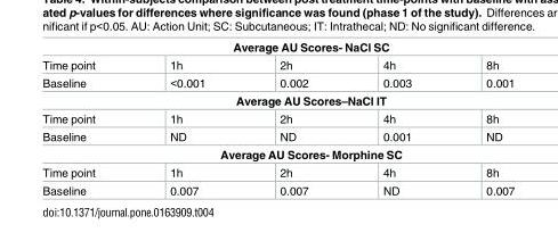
<table><tbody><tr><td colspan="5">Average AU Scores- NaCl SC</td></tr><tr><td>Time point</td><td>1h</td><td>2h</td><td>4h</td><td>8h</td></tr><tr><td>Baseline</td><td>&lt;0.001</td><td>0.002</td><td>0.003</td><td>0.001</td></tr><tr><td colspan="5">Average AU Scores–NaCl IT</td></tr><tr><td>Time point</td><td>1h</td><td>2h</td><td>4h</td><td>8h</td></tr><tr><td>Baseline</td><td>ND</td><td>ND</td><td>0.001</td><td>ND</td></tr><tr><td colspan="5">Average AU Scores- Morphine SC</td></tr><tr><td>Time point</td><td>1h</td><td>2h</td><td>4h</td><td>8h</td></tr><tr><td>Baseline</td><td>0.007</td><td>0.007</td><td>ND</td><td>0.007</td></tr></tbody></table>